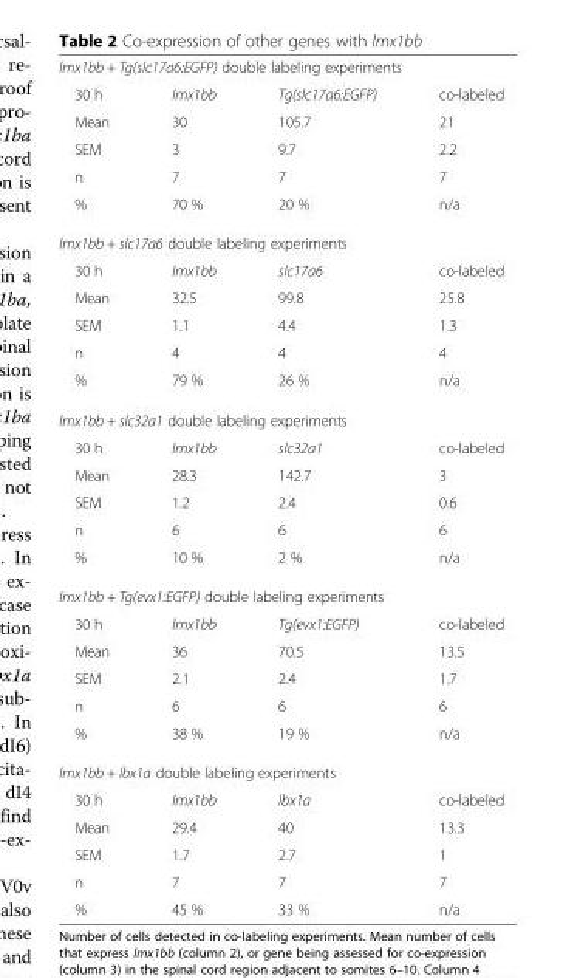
<table><tbody><tr><td colspan="4">lmx1bb + Tg(slc17a6:EGFP) double labeling experiments</td></tr><tr><td>30 h</td><td>lmx1bb</td><td>Tg(slc17a6:EGFP)</td><td>co-labeled</td></tr><tr><td>Mean</td><td>30</td><td>105.7</td><td>21</td></tr><tr><td>SEM</td><td>3</td><td>9.7</td><td>2.2</td></tr><tr><td>n</td><td>7</td><td>7</td><td>7</td></tr><tr><td>%</td><td>70 %</td><td>20 %</td><td>n/a</td></tr><tr><td colspan="4">lmx1bb + slc17a6 double labeling experiments</td></tr><tr><td>30 h</td><td>lmx1bb</td><td>slc17a6</td><td>co-labeled</td></tr><tr><td>Mean</td><td>32.5</td><td>99.8</td><td>25.8</td></tr><tr><td>SEM</td><td>1.1</td><td>4.4</td><td>1.3</td></tr><tr><td>n</td><td>4</td><td>4</td><td>4</td></tr><tr><td>%</td><td>79 %</td><td>26 %</td><td>n/a</td></tr><tr><td colspan="4">lmx1bb + slc32a1 double labeling experiments</td></tr><tr><td>30 h</td><td>lmx1bb</td><td>slc32a1</td><td>co-labeled</td></tr><tr><td>Mean</td><td>28.3</td><td>142.7</td><td>3</td></tr><tr><td>SEM</td><td>1.2</td><td>2.4</td><td>0.6</td></tr><tr><td>n</td><td>6</td><td>6</td><td>6</td></tr><tr><td>%</td><td>10 %</td><td>2 %</td><td>n/a</td></tr><tr><td colspan="4">lmx1bb + Tg(evx1:EGFP) double labeling experiments</td></tr><tr><td>30 h</td><td>lmx1bb</td><td>Tg(evx1:EGFP)</td><td>co-labeled</td></tr><tr><td>Mean</td><td>36</td><td>70.5</td><td>13.5</td></tr><tr><td>SEM</td><td>2.1</td><td>2.4</td><td>1.7</td></tr><tr><td>n</td><td>6</td><td>6</td><td>6</td></tr><tr><td>%</td><td>38 %</td><td>19 %</td><td>n/a</td></tr><tr><td colspan="4">lmx1bb + lbx1a double labeling experiments</td></tr><tr><td>30 h</td><td>lmx1bb</td><td>lbx1a</td><td>co-labeled</td></tr><tr><td>Mean</td><td>29.4</td><td>40</td><td>13.3</td></tr><tr><td>SEM</td><td>1.7</td><td>2.7</td><td>1</td></tr><tr><td>n</td><td>7</td><td>7</td><td>7</td></tr><tr><td>%</td><td>45 %</td><td>33 %</td><td>n/a</td></tr></tbody></table>